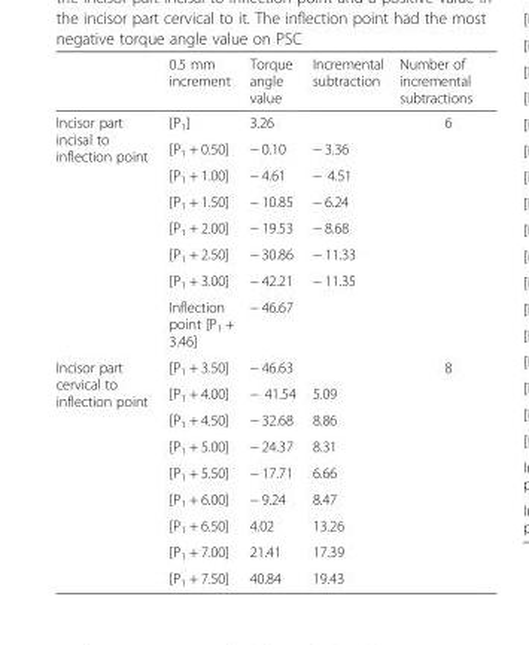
<table><thead><tr><td></td><td>0.5 mm increment</td><td>Torque angle value</td><td>Incremental subtraction</td><td>Number of incremental subtractions</td></tr></thead><tbody><tr><td rowspan="8">Incisor part incisal to inflection point</td><td>[P<sub>1</sub>]</td><td>3.26</td><td></td><td rowspan="7">6</td></tr><tr><td>[P<sub>1</sub> + 0.50]</td><td>− 0.10</td><td>− 3.36</td></tr><tr><td>[P<sub>1</sub> + 1.00]</td><td>− 4.61</td><td>− 4.51</td></tr><tr><td>[P<sub>1</sub> + 1.50]</td><td>− 10.85</td><td>− 6.24</td></tr><tr><td>[P<sub>1</sub> + 2.00]</td><td>− 19.53</td><td>− 8.68</td></tr><tr><td>[P<sub>1</sub> + 2.50]</td><td>− 30.86</td><td>− 11.33</td></tr><tr><td>[P<sub>1</sub> + 3.00]</td><td>− 42.21</td><td>− 11.35</td></tr><tr><td>Inflection point [P<sub>1</sub> + 3.46]</td><td>− 46.67</td><td></td><td></td></tr><tr><td rowspan="9">Incisor part cervical to inflection point</td><td>[P<sub>1</sub> + 3.50]</td><td>− 46.63</td><td></td><td rowspan="9">8</td></tr><tr><td>[P<sub>1</sub> + 4.00]</td><td>− 41.54</td><td>5.09</td></tr><tr><td>[P<sub>1</sub> + 4.50]</td><td>− 32.68</td><td>8.86</td></tr><tr><td>[P<sub>1</sub> + 5.00]</td><td>− 24.37</td><td>8.31</td></tr><tr><td>[P<sub>1</sub> + 5.50]</td><td>− 17.71</td><td>6.66</td></tr><tr><td>[P<sub>1</sub> + 6.00]</td><td>− 9.24</td><td>8.47</td></tr><tr><td>[P<sub>1</sub> + 6.50]</td><td>4.02</td><td>13.26</td></tr><tr><td>[P<sub>1</sub> + 7.00]</td><td>21.41</td><td>17.39</td></tr><tr><td>[P<sub>1</sub> + 7.50]</td><td>40.84</td><td>19.43</td></tr></tbody></table>